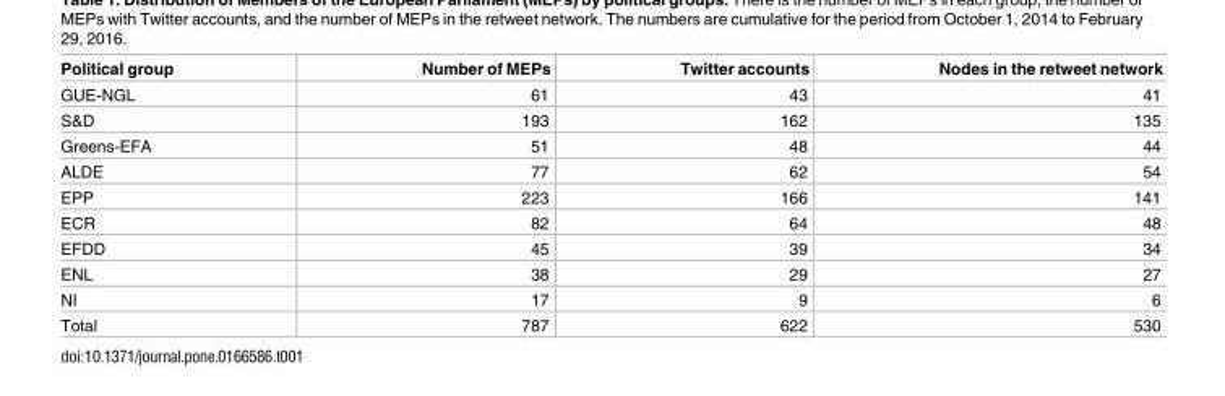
<table><thead><tr><td>Political group</td><td>Number of MEPs</td><td>Twitter accounts</td><td>Nodes in the retweet network</td></tr></thead><tbody><tr><td>GUE-NGL</td><td>61</td><td>43</td><td>41</td></tr><tr><td>S&amp;D</td><td>193</td><td>162</td><td>135</td></tr><tr><td>Greens-EFA</td><td>51</td><td>48</td><td>44</td></tr><tr><td>ALDE</td><td>77</td><td>62</td><td>54</td></tr><tr><td>EPP</td><td>223</td><td>166</td><td>141</td></tr><tr><td>ECR</td><td>82</td><td>64</td><td>48</td></tr><tr><td>EFDD</td><td>45</td><td>39</td><td>34</td></tr><tr><td>ENL</td><td>38</td><td>29</td><td>27</td></tr><tr><td>NI</td><td>17</td><td>9</td><td>6</td></tr><tr><td>Total</td><td>787</td><td>622</td><td>530</td></tr></tbody></table>